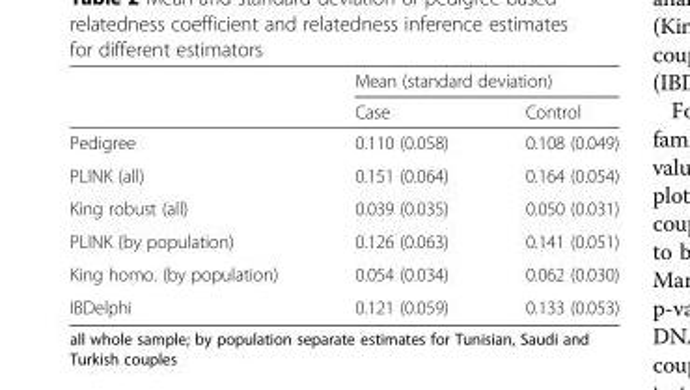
<table><thead><tr><td rowspan="2"></td><td colspan="2">Mean (standard deviation)</td></tr><tr><td>Case</td><td>Control</td></tr></thead><tbody><tr><td>Pedigree</td><td>0.110 (0.058)</td><td>0.108 (0.049)</td></tr><tr><td>PLINK (all)</td><td>0.151 (0.064)</td><td>0.164 (0.054)</td></tr><tr><td>King robust (all)</td><td>0.039 (0.035)</td><td>0.050 (0.031)</td></tr><tr><td>PLINK (by population)</td><td>0.126 (0.063)</td><td>0.141 (0.051)</td></tr><tr><td>King homo. (by population)</td><td>0.054 (0.034)</td><td>0.062 (0.030)</td></tr><tr><td>IBDelphi</td><td>0.121 (0.059)</td><td>0.133 (0.053)</td></tr></tbody></table>